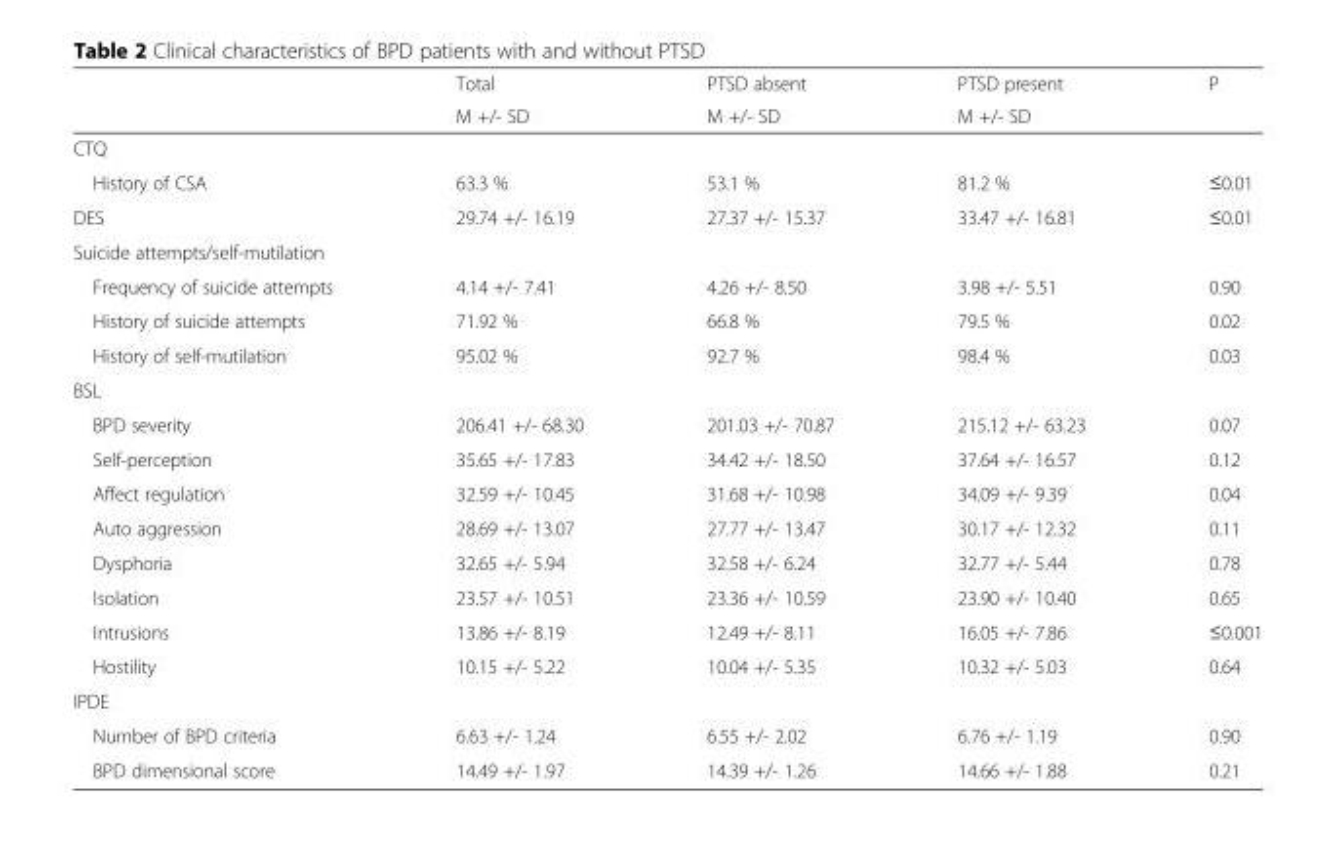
<table><thead><tr><td rowspan="2"></td><td rowspan="2">Total M +/- SD</td><td rowspan="2">PTSD absent M +/- SD</td><td rowspan="2">PTSD present M +/- SD</td><td rowspan="2">P</td></tr><tr></tr></thead><tbody><tr><td colspan="5">CTQ</td></tr><tr><td>History of CSA</td><td>63.3 %</td><td>53.1 %</td><td>81.2 %</td><td>≤0.01</td></tr><tr><td>DES</td><td>29.74 +/- 16.19</td><td>27.37 +/- 15.37</td><td>33.47 +/- 16.81</td><td>≤0.01</td></tr><tr><td colspan="5">Suicide attempts/self-mutilation</td></tr><tr><td>Frequency of suicide attempts</td><td>4.14 +/- 7.41</td><td>4.26 +/- 8.50</td><td>3.98 +/- 5.51</td><td>0.90</td></tr><tr><td>History of suicide attempts</td><td>71.92 %</td><td>66.8 %</td><td>79.5 %</td><td>0.02</td></tr><tr><td>History of self-mutilation</td><td>95.02 %</td><td>92.7 %</td><td>98.4 %</td><td>0.03</td></tr><tr><td colspan="5">BSL</td></tr><tr><td>BPD severity</td><td>206.41 +/- 68.30</td><td>201.03 +/- 70.87</td><td>215.12 +/- 63.23</td><td>0.07</td></tr><tr><td>Self-perception</td><td>35.65 +/- 17.83</td><td>34.42 +/- 18.50</td><td>37.64 +/- 16.57</td><td>0.12</td></tr><tr><td>Affect regulation</td><td>32.59 +/- 10.45</td><td>31.68 +/- 10.98</td><td>34.09 +/- 9.39</td><td>0.04</td></tr><tr><td>Auto aggression</td><td>28.69 +/- 13.07</td><td>27.77 +/- 13.47</td><td>30.17 +/- 12.32</td><td>0.11</td></tr><tr><td>Dysphoria</td><td>32.65 +/- 5.94</td><td>32.58 +/- 6.24</td><td>32.77 +/- 5.44</td><td>0.78</td></tr><tr><td>Isolation</td><td>23.57 +/- 10.51</td><td>23.36 +/- 10.59</td><td>23.90 +/- 10.40</td><td>0.65</td></tr><tr><td>Intrusions</td><td>13.86 +/- 8.19</td><td>12.49 +/- 8.11</td><td>16.05 +/- 7.86</td><td>≤0.001</td></tr><tr><td>Hostility</td><td>10.15 +/- 5.22</td><td>10.04 +/- 5.35</td><td>10.32 +/- 5.03</td><td>0.64</td></tr><tr><td colspan="5">IPDE</td></tr><tr><td>Number of BPD criteria</td><td>6.63 +/- 1.24</td><td>6.55 +/- 2.02</td><td>6.76 +/- 1.19</td><td>0.90</td></tr><tr><td>BPD dimensional score</td><td>14.49 +/- 1.97</td><td>14.39 +/- 1.26</td><td>14.66 +/- 1.88</td><td>0.21</td></tr></tbody></table>